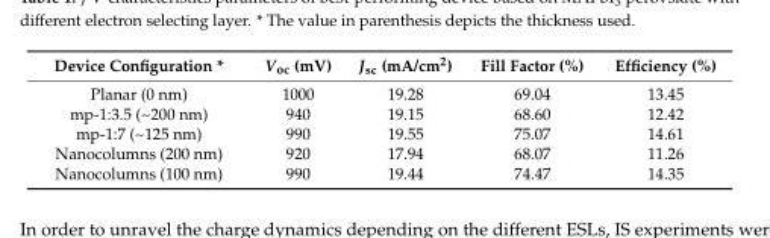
<table><thead><tr><td>Device Configuration *</td><td>V<sub>oc</sub> (mV)</td><td>J<sub>sc</sub> (mA/cm<sup>2</sup>)</td><td>Fill Factor (%)</td><td>Efficiency (%)</td></tr></thead><tbody><tr><td>Planar (0 nm)</td><td>1000</td><td>19.28</td><td>69.04</td><td>13.45</td></tr><tr><td>mp-1:3.5 (~200 nm)</td><td>940</td><td>19.15</td><td>68.60</td><td>12.42</td></tr><tr><td>mp-1:7 (~125 nm)</td><td>990</td><td>19.55</td><td>75.07</td><td>14.61</td></tr><tr><td>Nanocolumns (200 nm)</td><td>920</td><td>17.94</td><td>68.07</td><td>11.26</td></tr><tr><td>Nanocolumns (100 nm)</td><td>990</td><td>19.44</td><td>74.47</td><td>14.35</td></tr></tbody></table>